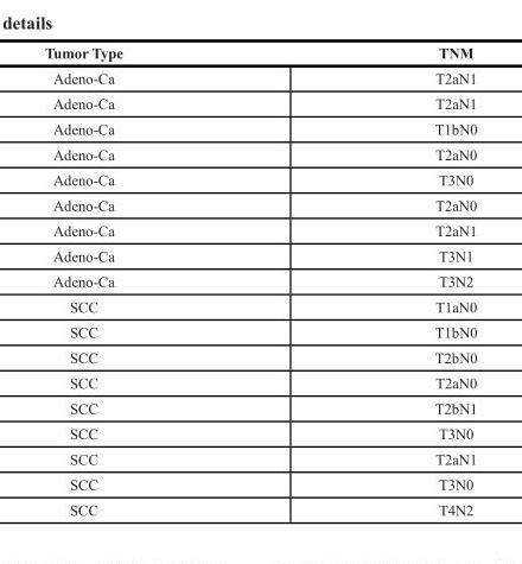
<table><thead><tr><td>Tumor Type</td><td>TNM</td></tr></thead><tbody><tr><td>Adeno-Ca</td><td>T2aN1</td></tr><tr><td>Adeno-Ca</td><td>T2aN1</td></tr><tr><td>Adeno-Ca</td><td>T1bN0</td></tr><tr><td>Adeno-Ca</td><td>T2aN0</td></tr><tr><td>Adeno-Ca</td><td>T3N0</td></tr><tr><td>Adeno-Ca</td><td>T2aN0</td></tr><tr><td>Adeno-Ca</td><td>T2aN1</td></tr><tr><td>Adeno-Ca</td><td>T3N1</td></tr><tr><td>Adeno-Ca</td><td>T3N2</td></tr><tr><td>SCC</td><td>T1aN0</td></tr><tr><td>SCC</td><td>T1bN0</td></tr><tr><td>SCC</td><td>T2bN0</td></tr><tr><td>SCC</td><td>T2aN0</td></tr><tr><td>SCC</td><td>T2bN1</td></tr><tr><td>SCC</td><td>T3N0</td></tr><tr><td>SCC</td><td>T2aN1</td></tr><tr><td>SCC</td><td>T3N0</td></tr><tr><td>SCC</td><td>T4N2</td></tr></tbody></table>